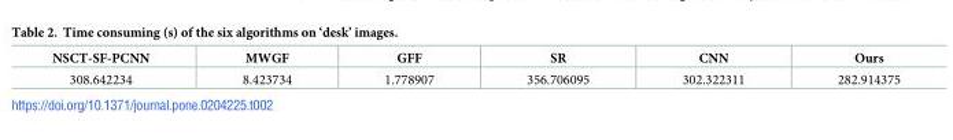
<table><thead><tr><td>NSCT-SF-PCNN</td><td>MWGF</td><td>GFF</td><td>SR</td><td>CNN</td><td>Ours</td></tr></thead><tbody><tr><td>308.642234</td><td>8.423734</td><td>1.778907</td><td>356.706095</td><td>302.322311</td><td>282.914375</td></tr></tbody></table>